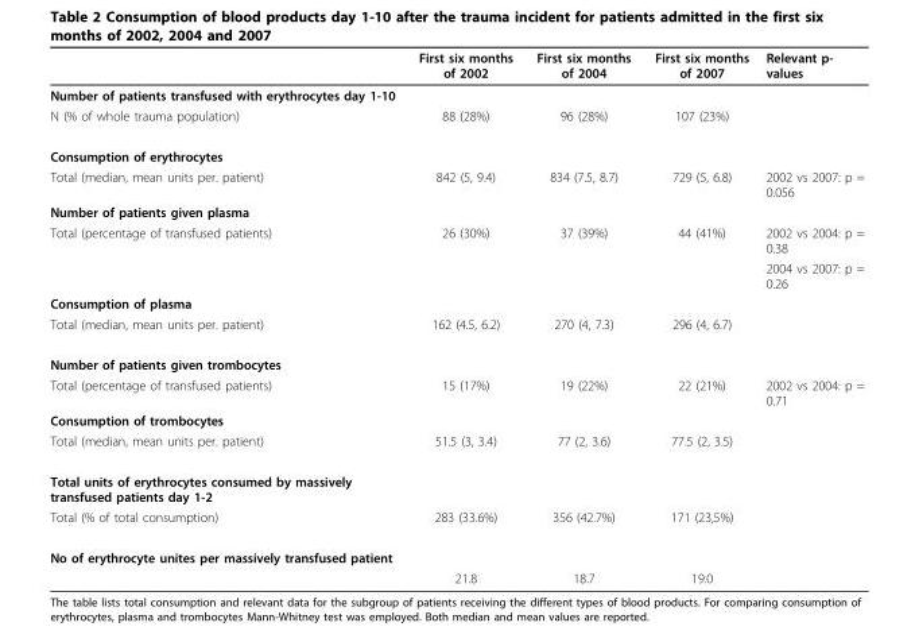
<table><thead><tr><td></td><td>First six months of 2002</td><td>First six months of 2004</td><td>First six months of 2007</td><td>Relevant p- values</td></tr></thead><tbody><tr><td colspan="5">Number of patients transfused with erythrocytes day 1-10</td></tr><tr><td>N (% of whole trauma population)</td><td>88 (28%)</td><td>96 (28%)</td><td>107 (23%)</td><td></td></tr><tr><td colspan="5">Consumption of erythrocytes</td></tr><tr><td>Total (median, mean units per. patient)</td><td>842 (5, 9.4)</td><td>834 (7.5, 8.7)</td><td>729 (5, 6.8)</td><td>2002 vs 2007: p = 0.056</td></tr><tr><td colspan="5">Number of patients given plasma</td></tr><tr><td rowspan="2">Total (percentage of transfused patients)</td><td>26 (30%)</td><td>37 (39%)</td><td>44 (41%)</td><td>2002 vs 2004: p = 0.38</td></tr><tr><td></td><td></td><td></td><td>2004 vs 2007: p = 0.26</td></tr><tr><td colspan="5">Consumption of plasma</td></tr><tr><td>Total (median, mean units per. patient)</td><td>162 (4.5, 6.2)</td><td>270 (4, 7.3)</td><td>296 (4, 6.7)</td><td></td></tr><tr><td colspan="5">Number of patients given trombocytes</td></tr><tr><td>Total (percentage of transfused patients)</td><td>15 (17%)</td><td>19 (22%)</td><td>22 (21%)</td><td>2002 vs 2004: p = 0.71</td></tr><tr><td colspan="5">Consumption of trombocytes</td></tr><tr><td>Total (median, mean units per. patient)</td><td>51.5 (3, 3.4)</td><td>77 (2, 3.6)</td><td>77.5 (2, 3.5)</td><td></td></tr><tr><td colspan="5">Total units of erythrocytes consumed by massively transfused patients day 1-2</td></tr><tr><td>Total (% of total consumption)</td><td>283 (33.6%)</td><td>356 (42.7%)</td><td>171 (23,5%)</td><td></td></tr><tr><td colspan="5">No of erythrocyte unites per massively transfused patient</td></tr><tr><td></td><td>21.8</td><td>18.7</td><td>19.0</td><td></td></tr></tbody></table>